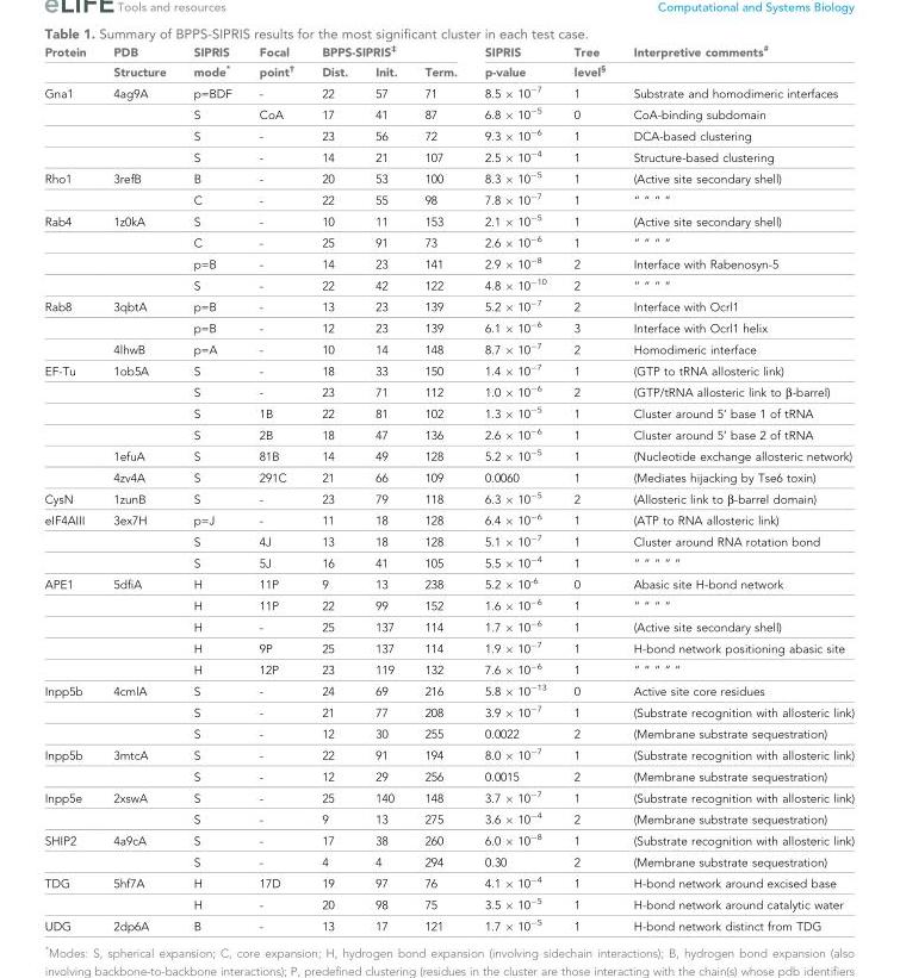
<table><thead><tr><td rowspan="2">Protein</td><td rowspan="2">PDB Structure</td><td rowspan="2">SIPRIS mode*</td><td rowspan="2">Focal point<sup>†</sup></td><td colspan="3">BPPS-SIPRIS<sup>‡</sup></td><td rowspan="2">SIPRIS p-value</td><td rowspan="2">Tree level<sup>§</sup></td><td rowspan="2">Interpretive comments<sup>#</sup></td></tr><tr><td>Dist.</td><td>Init.</td><td>Term.</td></tr></thead><tbody><tr><td rowspan="4">Gna1</td><td>4ag9A</td><td>p=BDF</td><td>-</td><td>22</td><td>57</td><td>71</td><td>8.5 × 10<sup>−7</sup></td><td>1</td><td>Substrate and homodimeric interfaces</td></tr><tr><td></td><td>S</td><td>CoA</td><td>17</td><td>41</td><td>87</td><td>6.8 × 10<sup>−5</sup></td><td>0</td><td>CoA-binding subdomain</td></tr><tr><td></td><td>S</td><td>-</td><td>23</td><td>56</td><td>72</td><td>9.3 × 10<sup>−6</sup></td><td>1</td><td>DCA-based clustering</td></tr><tr><td></td><td>S</td><td>-</td><td>14</td><td>21</td><td>107</td><td>2.5 × 10<sup>−4</sup></td><td>1</td><td>Structure-based clustering</td></tr><tr><td rowspan="2">Rho1</td><td>3refB</td><td>B</td><td>-</td><td>20</td><td>53</td><td>100</td><td>8.3 × 10<sup>−5</sup></td><td>1</td><td>(Active site secondary shell)</td></tr><tr><td></td><td>C</td><td>-</td><td>22</td><td>55</td><td>98</td><td>7.8 × 10<sup>−7</sup></td><td>1</td><td>“ “ “ “</td></tr><tr><td rowspan="4">Rab4</td><td>1z0kA</td><td>S</td><td>-</td><td>10</td><td>11</td><td>153</td><td>2.1 × 10<sup>−5</sup></td><td>1</td><td>(Active site secondary shell)</td></tr><tr><td></td><td>C</td><td>-</td><td>25</td><td>91</td><td>73</td><td>2.6 × 10<sup>−6</sup></td><td>1</td><td>“ “ “ “</td></tr><tr><td></td><td>p=B</td><td>-</td><td>14</td><td>23</td><td>141</td><td>2.9 × 10<sup>−8</sup></td><td>2</td><td>Interface with Rabenosyn-5</td></tr><tr><td></td><td>S</td><td>-</td><td>22</td><td>42</td><td>122</td><td>4.8 × 10<sup>−10</sup></td><td>2</td><td>“ “ “ “</td></tr><tr><td rowspan="3">Rab8</td><td>3qbtA</td><td>p=B</td><td>-</td><td>13</td><td>23</td><td>139</td><td>5.2 × 10<sup>−7</sup></td><td>2</td><td>Interface with Ocrl1</td></tr><tr><td></td><td>p=B</td><td>-</td><td>12</td><td>23</td><td>139</td><td>6.1 × 10<sup>−6</sup></td><td>3</td><td>Interface with Ocrl1 helix</td></tr><tr><td>4lhwB</td><td>p=A</td><td>-</td><td>10</td><td>14</td><td>148</td><td>8.7 × 10<sup>−7</sup></td><td>2</td><td>Homodimeric interface</td></tr><tr><td rowspan="6">EF-Tu</td><td>1ob5A</td><td>S</td><td>-</td><td>18</td><td>33</td><td>150</td><td>1.4 × 10<sup>−7</sup></td><td>1</td><td>(GTP to tRNA allosteric link)</td></tr><tr><td></td><td>S</td><td>-</td><td>23</td><td>71</td><td>112</td><td>1.0 × 10<sup>−6</sup></td><td>2</td><td>(GTP/tRNA allosteric link to β-barrel)</td></tr><tr><td></td><td>S</td><td>1B</td><td>22</td><td>81</td><td>102</td><td>1.3 × 10<sup>−5</sup></td><td>1</td><td>Cluster around 5’ base 1 of tRNA</td></tr><tr><td></td><td>S</td><td>2B</td><td>18</td><td>47</td><td>136</td><td>2.6 × 10<sup>−6</sup></td><td>1</td><td>Cluster around 5’ base 2 of tRNA</td></tr><tr><td>1efuA</td><td>S</td><td>81B</td><td>14</td><td>49</td><td>128</td><td>5.2 × 10<sup>−5</sup></td><td>1</td><td>(Nucleotide exchange allosteric network)</td></tr><tr><td>4zv4A</td><td>S</td><td>291C</td><td>21</td><td>66</td><td>109</td><td>0.0060</td><td>1</td><td>(Mediates hijacking by Tse6 toxin)</td></tr><tr><td>CysN</td><td>1zunB</td><td>S</td><td>-</td><td>23</td><td>79</td><td>118</td><td>6.3 × 10<sup>−5</sup></td><td>2</td><td>(Allosteric link to β-barrel domain)</td></tr><tr><td rowspan="3">eIF4AIII</td><td>3ex7H</td><td>p=J</td><td>-</td><td>11</td><td>18</td><td>128</td><td>6.4 × 10<sup>−6</sup></td><td>1</td><td>(ATP to RNA allosteric link)</td></tr><tr><td></td><td>S</td><td>4J</td><td>13</td><td>18</td><td>128</td><td>5.1 × 10<sup>−7</sup></td><td>1</td><td>Cluster around RNA rotation bond</td></tr><tr><td></td><td>S</td><td>5J</td><td>16</td><td>41</td><td>105</td><td>5.5 × 10<sup>−4</sup></td><td>1</td><td>“ “ “ “ “</td></tr><tr><td rowspan="5">APE1</td><td>5dfiA</td><td>H</td><td>11P</td><td>9</td><td>13</td><td>238</td><td>5.2 × 10<sup>-6</sup></td><td>0</td><td>Abasic site H-bond network</td></tr><tr><td></td><td>H</td><td>11P</td><td>22</td><td>99</td><td>152</td><td>1.6 × 10<sup>−6</sup></td><td>1</td><td>“ “ “ “</td></tr><tr><td></td><td>H</td><td>-</td><td>25</td><td>137</td><td>114</td><td>1.7 × 10<sup>−6</sup></td><td>1</td><td>(Active site secondary shell)</td></tr><tr><td></td><td>H</td><td>9P</td><td>25</td><td>137</td><td>114</td><td>1.9 × 10<sup>−7</sup></td><td>1</td><td>H-bond network positioning abasic site</td></tr><tr><td></td><td>H</td><td>12P</td><td>23</td><td>119</td><td>132</td><td>7.6 × 10<sup>−6</sup></td><td>1</td><td>“ “ “ “ “</td></tr><tr><td rowspan="3">Inpp5b</td><td>4cmlA</td><td>S</td><td>-</td><td>24</td><td>69</td><td>216</td><td>5.8 × 10<sup>−13</sup></td><td>0</td><td>Active site core residues</td></tr><tr><td></td><td>S</td><td>-</td><td>21</td><td>77</td><td>208</td><td>3.9 × 10<sup>−7</sup></td><td>1</td><td>(Substrate recognition with allosteric link)</td></tr><tr><td></td><td>S</td><td>-</td><td>12</td><td>30</td><td>255</td><td>0.0022</td><td>2</td><td>(Membrane substrate sequestration)</td></tr><tr><td rowspan="2">Inpp5b</td><td>3mtcA</td><td>S</td><td>-</td><td>22</td><td>91</td><td>194</td><td>8.0 × 10<sup>−7</sup></td><td>1</td><td>(Substrate recognition with allosteric link)</td></tr><tr><td></td><td>S</td><td>-</td><td>12</td><td>29</td><td>256</td><td>0.0015</td><td>2</td><td>(Membrane substrate sequestration)</td></tr><tr><td rowspan="2">Inpp5e</td><td>2xswA</td><td>S</td><td>-</td><td>25</td><td>140</td><td>148</td><td>3.7 × 10<sup>−7</sup></td><td>1</td><td>(Substrate recognition with allosteric link)</td></tr><tr><td></td><td>S</td><td>-</td><td>9</td><td>13</td><td>275</td><td>3.6 × 10<sup>−4</sup></td><td>2</td><td>(Membrane substrate sequestration)</td></tr><tr><td rowspan="2">SHIP2</td><td>4a9cA</td><td>S</td><td>-</td><td>17</td><td>38</td><td>260</td><td>6.0 × 10<sup>−8</sup></td><td>1</td><td>(Substrate recognition with allosteric link)</td></tr><tr><td></td><td>S</td><td>-</td><td>4</td><td>4</td><td>294</td><td>0.30</td><td>2</td><td>(Membrane substrate sequestration)</td></tr><tr><td rowspan="2">TDG</td><td>5hf7A</td><td>H</td><td>17D</td><td>19</td><td>97</td><td>76</td><td>4.1 × 10<sup>−4</sup></td><td>1</td><td>H-bond network around excised base</td></tr><tr><td></td><td>H</td><td>-</td><td>20</td><td>98</td><td>75</td><td>3.5 × 10<sup>−5</sup></td><td>1</td><td>H-bond network around catalytic water</td></tr><tr><td>UDG</td><td>2dp6A</td><td>B</td><td>-</td><td>13</td><td>17</td><td>121</td><td>1.7 × 10<sup>−5</sup></td><td>1</td><td>H-bond network distinct from TDG</td></tr></tbody></table>